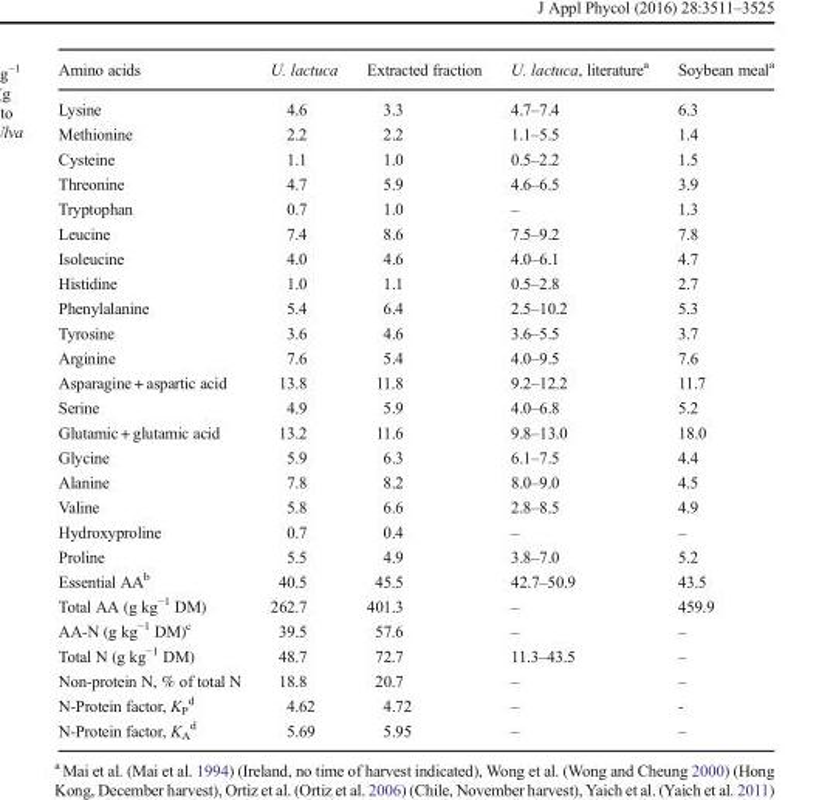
<table><thead><tr><td>Amino acids</td><td>U. lactuca</td><td>Extracted fraction</td><td>U. lactuca, literature<sup>a</sup></td><td>Soybean meal<sup>a</sup></td></tr></thead><tbody><tr><td>Lysine</td><td>4.6</td><td>3.3</td><td>4.7–7.4</td><td>6.3</td></tr><tr><td>Methionine</td><td>2.2</td><td>2.2</td><td>1.1–5.5</td><td>1.4</td></tr><tr><td>Cysteine</td><td>1.1</td><td>1.0</td><td>0.5–2.2</td><td>1.5</td></tr><tr><td>Threonine</td><td>4.7</td><td>5.9</td><td>4.6–6.5</td><td>3.9</td></tr><tr><td>Tryptophan</td><td>0.7</td><td>1.0</td><td>–</td><td>1.3</td></tr><tr><td>Leucine</td><td>7.4</td><td>8.6</td><td>7.5–9.2</td><td>7.8</td></tr><tr><td>Isoleucine</td><td>4.0</td><td>4.6</td><td>4.0–6.1</td><td>4.7</td></tr><tr><td>Histidine</td><td>1.0</td><td>1.1</td><td>0.5–2.8</td><td>2.7</td></tr><tr><td>Phenylalanine</td><td>5.4</td><td>6.4</td><td>2.5–10.2</td><td>5.3</td></tr><tr><td>Tyrosine</td><td>3.6</td><td>4.6</td><td>3.6–5.5</td><td>3.7</td></tr><tr><td>Arginine</td><td>7.6</td><td>5.4</td><td>4.0–9.5</td><td>7.6</td></tr><tr><td>Asparagine + aspartic acid</td><td>13.8</td><td>11.8</td><td>9.2–12.2</td><td>11.7</td></tr><tr><td>Serine</td><td>4.9</td><td>5.9</td><td>4.0–6.8</td><td>5.2</td></tr><tr><td>Glutamic + glutamic acid</td><td>13.2</td><td>11.6</td><td>9.8–13.0</td><td>18.0</td></tr><tr><td>Glycine</td><td>5.9</td><td>6.3</td><td>6.1–7.5</td><td>4.4</td></tr><tr><td>Alanine</td><td>7.8</td><td>8.2</td><td>8.0–9.0</td><td>4.5</td></tr><tr><td>Valine</td><td>5.8</td><td>6.6</td><td>2.8–8.5</td><td>4.9</td></tr><tr><td>Hydroxyproline</td><td>0.7</td><td>0.4</td><td>–</td><td>–</td></tr><tr><td>Proline</td><td>5.5</td><td>4.9</td><td>3.8–7.0</td><td>5.2</td></tr><tr><td>Essential AA<sup>b</sup></td><td>40.5</td><td>45.5</td><td>42.7–50.9</td><td>43.5</td></tr><tr><td>Total AA (g kg<sup>−1</sup> DM)</td><td>262.7</td><td>401.3</td><td>–</td><td>459.9</td></tr><tr><td>AA-N (g kg<sup>−1</sup> DM)<sup>c</sup></td><td>39.5</td><td>57.6</td><td>–</td><td>–</td></tr><tr><td>Total N (g kg<sup>−1</sup> DM)</td><td>48.7</td><td>72.7</td><td>11.3–43.5</td><td>–</td></tr><tr><td>Non-protein N, % of total N</td><td>18.8</td><td>20.7</td><td>–</td><td>–</td></tr><tr><td>N-Protein factor, K<sub>P</sub> <sup>d</sup></td><td>4.62</td><td>4.72</td><td>–</td><td>-</td></tr><tr><td>N-Protein factor, K<sub>A</sub> <sup>d</sup></td><td>5.69</td><td>5.95</td><td>–</td><td>–</td></tr></tbody></table>